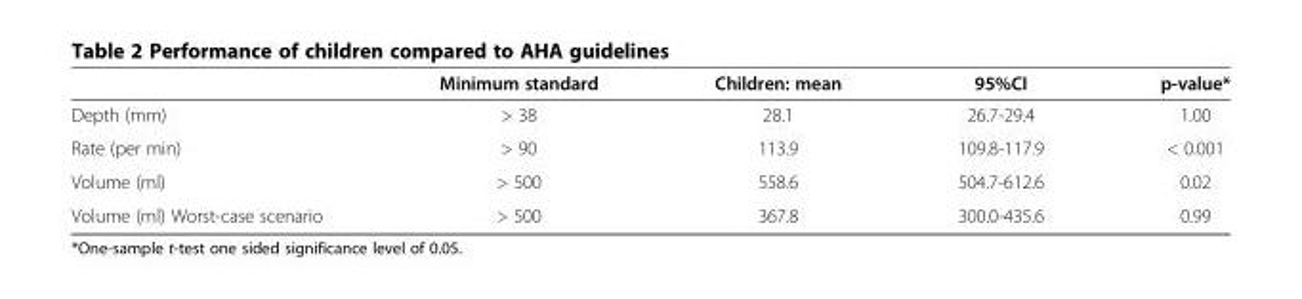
<table><thead><tr><td></td><td>Minimum standard</td><td>Children: mean</td><td>95%CI</td><td>p-value*</td></tr></thead><tbody><tr><td>Depth (mm)</td><td>&gt; 38</td><td>28.1</td><td>26.7-29.4</td><td>1.00</td></tr><tr><td>Rate (per min)</td><td>&gt; 90</td><td>113.9</td><td>109.8-117.9</td><td>&lt; 0.001</td></tr><tr><td>Volume (ml)</td><td>&gt; 500</td><td>558.6</td><td>504.7-612.6</td><td>0.02</td></tr><tr><td>Volume (ml) Worst-case scenario</td><td>&gt; 500</td><td>367.8</td><td>300.0-435.6</td><td>0.99</td></tr></tbody></table>